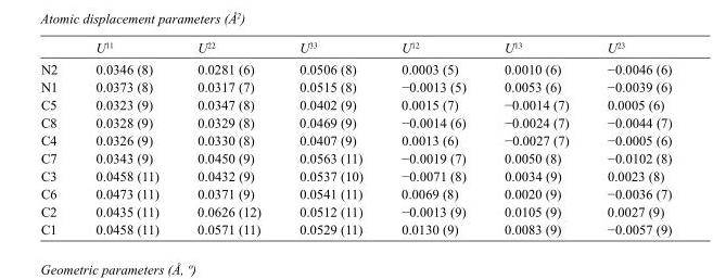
<table><thead><tr><td></td><td>U<sup>11</sup></td><td>U<sup>22</sup></td><td>U<sup>33</sup></td><td>U<sup>12</sup></td><td>U<sup>13</sup></td><td>U<sup>23</sup></td></tr></thead><tbody><tr><td>N2</td><td>0.0346 (8)</td><td>0.0281 (6)</td><td>0.0506 (8)</td><td>0.0003 (5)</td><td>0.0010 (6)</td><td>−0.0046 (6)</td></tr><tr><td>N1</td><td>0.0373 (8)</td><td>0.0317 (7)</td><td>0.0515 (8)</td><td>−0.0013 (5)</td><td>0.0053 (6)</td><td>−0.0039 (6)</td></tr><tr><td>C5</td><td>0.0323 (9)</td><td>0.0347 (8)</td><td>0.0402 (9)</td><td>0.0015 (7)</td><td>−0.0014 (7)</td><td>0.0005 (6)</td></tr><tr><td>C8</td><td>0.0328 (9)</td><td>0.0329 (8)</td><td>0.0469 (9)</td><td>−0.0014 (6)</td><td>−0.0024 (7)</td><td>−0.0044 (7)</td></tr><tr><td>C4</td><td>0.0326 (9)</td><td>0.0330 (8)</td><td>0.0407 (9)</td><td>0.0013 (6)</td><td>−0.0027 (7)</td><td>−0.0005 (6)</td></tr><tr><td>C7</td><td>0.0343 (9)</td><td>0.0450 (9)</td><td>0.0563 (11)</td><td>−0.0019 (7)</td><td>0.0050 (8)</td><td>−0.0102 (8)</td></tr><tr><td>C3</td><td>0.0458 (11)</td><td>0.0432 (9)</td><td>0.0537 (10)</td><td>−0.0071 (8)</td><td>0.0034 (9)</td><td>0.0023 (8)</td></tr><tr><td>C6</td><td>0.0473 (11)</td><td>0.0371 (9)</td><td>0.0541 (11)</td><td>0.0069 (8)</td><td>0.0020 (9)</td><td>−0.0036 (7)</td></tr><tr><td>C2</td><td>0.0435 (11)</td><td>0.0626 (12)</td><td>0.0512 (11)</td><td>−0.0013 (9)</td><td>0.0105 (9)</td><td>0.0027 (9)</td></tr><tr><td>C1</td><td>0.0458 (11)</td><td>0.0571 (11)</td><td>0.0529 (11)</td><td>0.0130 (9)</td><td>0.0083 (9)</td><td>−0.0057 (9)</td></tr></tbody></table>